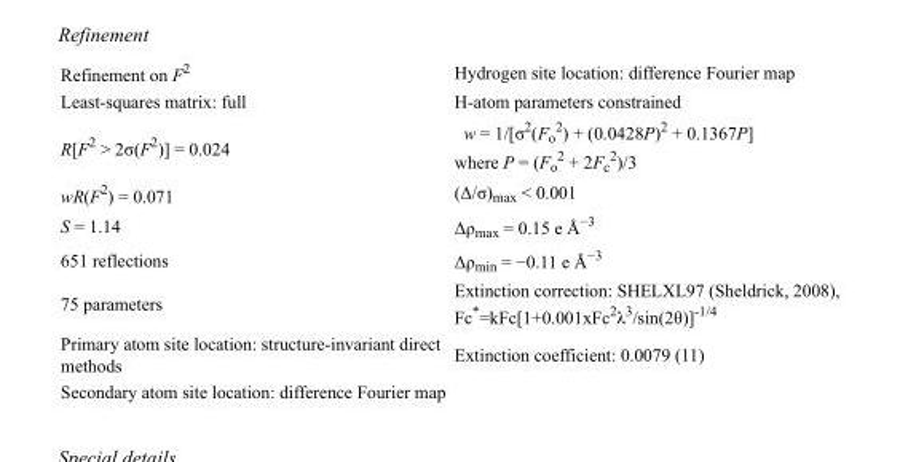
<table><tbody><tr><td>Refinement on F<sup>2</sup></td><td>Hydrogen site location: difference Fourier map</td></tr><tr><td>Least-squares matrix: full</td><td>H-atom parameters constrained</td></tr><tr><td>R[F<sup>2</sup> &gt; 2σ(F<sup>2</sup>)] = 0.024</td><td>w = 1/[σ<sup>2</sup>(F<sub>o</sub> <sup>2</sup>) + (0.0428P)<sup>2</sup> + 0.1367P] where P = (F<sub>o</sub> <sup>2</sup> + 2F<sub>c</sub> <sup>2</sup>)/3</td></tr><tr><td>wR(F<sup>2</sup>) = 0.071</td><td>(Δ/σ)<sub>max</sub> &lt; 0.001</td></tr><tr><td>S = 1.14</td><td>Δρ<sub>max</sub> = 0.15 e Å<sup>−3</sup></td></tr><tr><td>651 reflections</td><td>Δρ<sub>min</sub> = −0.11 e Å<sup>−3</sup></td></tr><tr><td>75 parameters</td><td>Extinction correction: SHELXL97 (Sheldrick, 2008), Fc*=kFc[1+0.001xFc<sup>2</sup>λ<sup>3</sup>/sin(2θ)]<sup>-1/4</sup></td></tr><tr><td>Primary atom site location: structure-invariant direct methods</td><td>Extinction coefficient: 0.0079 (11)</td></tr><tr><td>Secondary atom site location: difference Fourier map</td><td></td></tr></tbody></table>